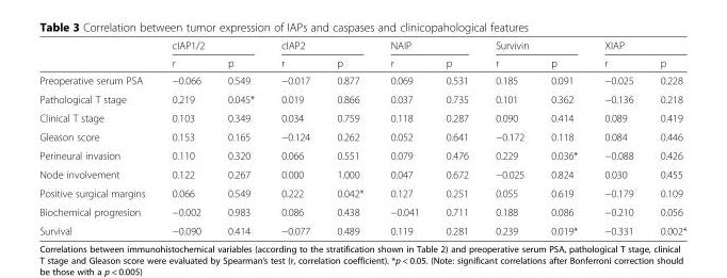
<table><thead><tr><td rowspan="2"></td><td colspan="2">cIAP1/2</td><td colspan="2">cIAP2</td><td colspan="2">NAIP</td><td colspan="2">Survivin</td><td colspan="2">XIAP</td></tr><tr><td>r</td><td>p</td><td>r</td><td>p</td><td>r</td><td>p</td><td>r</td><td>p</td><td>r</td><td>p</td></tr></thead><tbody><tr><td>Preoperative serum PSA</td><td>−0.066</td><td>0.549</td><td>−0.017</td><td>0.877</td><td>0.069</td><td>0.531</td><td>0.185</td><td>0.091</td><td>−0.025</td><td>0.228</td></tr><tr><td>Pathological T stage</td><td>0.219</td><td>0.045*</td><td>0.019</td><td>0.866</td><td>0.037</td><td>0.735</td><td>0.101</td><td>0.362</td><td>−0.136</td><td>0.218</td></tr><tr><td>Clinical T stage</td><td>0.103</td><td>0.349</td><td>0.034</td><td>0.759</td><td>0.118</td><td>0.287</td><td>0.090</td><td>0.414</td><td>0.089</td><td>0.419</td></tr><tr><td>Gleason score</td><td>0.153</td><td>0.165</td><td>−0.124</td><td>0.262</td><td>0.052</td><td>0.641</td><td>−0.172</td><td>0.118</td><td>0.084</td><td>0.446</td></tr><tr><td>Perineural invasion</td><td>0.110</td><td>0.320</td><td>0.066</td><td>0.551</td><td>0.079</td><td>0.476</td><td>0.229</td><td>0.036*</td><td>−0.088</td><td>0.426</td></tr><tr><td>Node involvement</td><td>0.122</td><td>0.267</td><td>0.000</td><td>1.000</td><td>0.047</td><td>0.672</td><td>−0.025</td><td>0.824</td><td>0.030</td><td>0.455</td></tr><tr><td>Positive surgical margins</td><td>0.066</td><td>0.549</td><td>0.222</td><td>0.042*</td><td>0.127</td><td>0.251</td><td>0.055</td><td>0.619</td><td>−0.179</td><td>0.109</td></tr><tr><td>Biochemical progresion</td><td>−0.002</td><td>0.983</td><td>0.086</td><td>0.438</td><td>−0.041</td><td>0.711</td><td>0.188</td><td>0.086</td><td>−0.210</td><td>0.056</td></tr><tr><td>Survival</td><td>−0.090</td><td>0.414</td><td>−0.077</td><td>0.489</td><td>0.119</td><td>0.281</td><td>0.239</td><td>0.019*</td><td>−0.331</td><td>0.002*</td></tr></tbody></table>